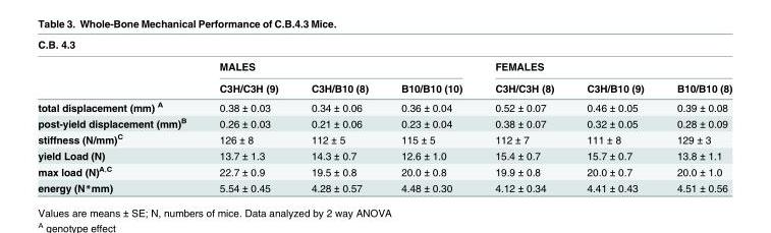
<table><thead><tr><td colspan="7">C.B. 4.3</td></tr><tr><td rowspan="2"></td><td colspan="3">MALES</td><td colspan="3">FEMALES</td></tr><tr><td>C3H/C3H (9)</td><td>C3H/B10 (8)</td><td>B10/B10 (10)</td><td>C3H/C3H (8)</td><td>C3H/B10 (9)</td><td>B10/B10 (8)</td></tr></thead><tbody><tr><td>total displacement (mm) <sup>A</sup></td><td>0.38 ± 0.03</td><td>0.34 ± 0.06</td><td>0.36 ± 0.04</td><td>0.52 ± 0.07</td><td>0.46 ± 0.05</td><td>0.39 ± 0.08</td></tr><tr><td>post-yield displacement (mm)<sup>B</sup></td><td>0.26 ± 0.03</td><td>0.21 ± 0.06</td><td>0.23 ± 0.04</td><td>0.38 ± 0.07</td><td>0.32 ± 0.05</td><td>0.28 ± 0.09</td></tr><tr><td>stiffness (N/mm)<sup>C</sup></td><td>126 ± 8</td><td>112 ± 5</td><td>115 ± 5</td><td>112 ± 7</td><td>111 ± 8</td><td>129 ± 3</td></tr><tr><td>yield Load (N)</td><td>13.7 ± 1.3</td><td>14.3 ± 0.7</td><td>12.6 ± 1.0</td><td>15.4 ± 0.7</td><td>15.7 ± 0.7</td><td>13.8 ± 1.1</td></tr><tr><td>max load (N)<sup>A,C</sup></td><td>22.7 ± 0.9</td><td>19.5 ± 0.8</td><td>20.0 ± 0.8</td><td>19.9 ± 0.8</td><td>20.0 ± 0.7</td><td>20.0 ± 1.0</td></tr><tr><td>energy (N*mm)</td><td>5.54 ± 0.45</td><td>4.28 ± 0.57</td><td>4.48 ± 0.30</td><td>4.12 ± 0.34</td><td>4.41 ± 0.43</td><td>4.51 ± 0.56</td></tr></tbody></table>